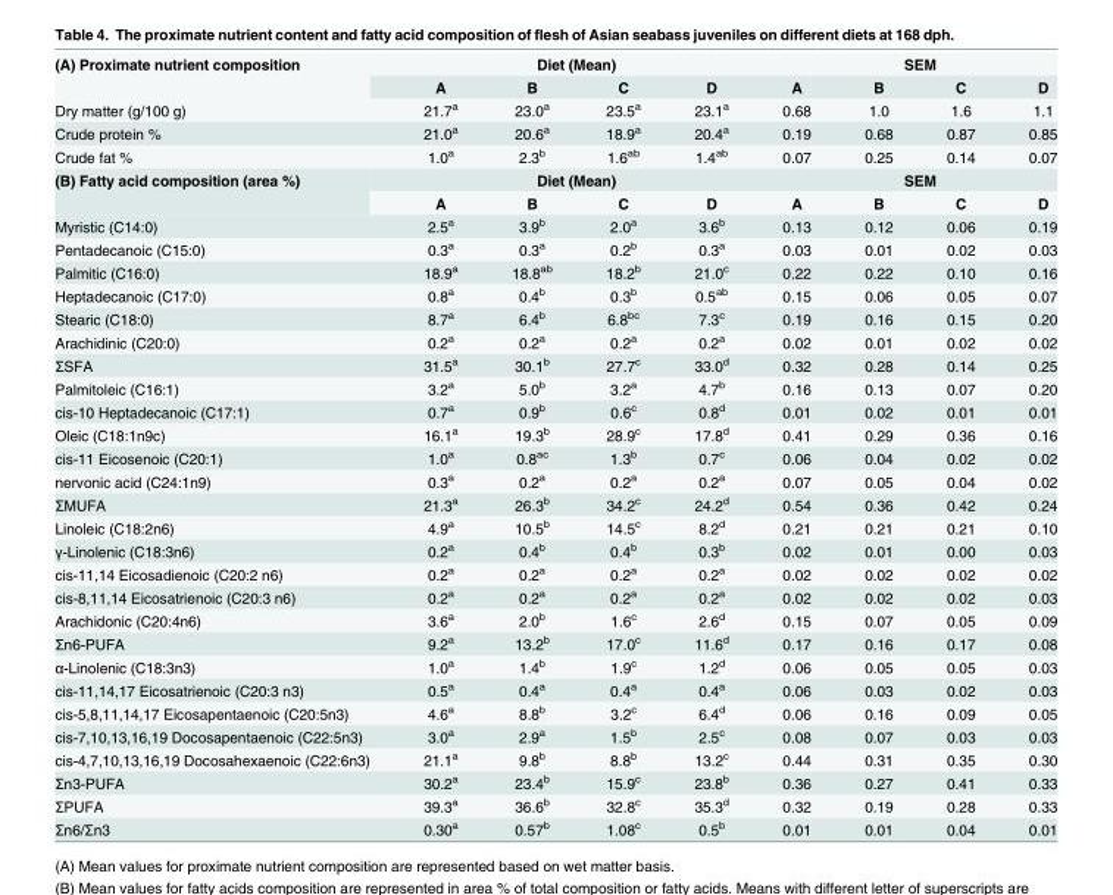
<table><tbody><tr><td rowspan="2">(A) Proximate nutrient composition</td><td colspan="4">Diet (Mean)</td><td colspan="4">SEM</td></tr><tr><td>A</td><td>B</td><td>C</td><td>D</td><td>A</td><td>B</td><td>C</td><td>D</td></tr><tr><td>Dry matter (g/100 g)</td><td>21.7<sup>a</sup></td><td>23.0<sup>a</sup></td><td>23.5<sup>a</sup></td><td>23.1<sup>a</sup></td><td>0.68</td><td>1.0</td><td>1.6</td><td>1.1</td></tr><tr><td>Crude protein %</td><td>21.0<sup>a</sup></td><td>20.6<sup>a</sup></td><td>18.9<sup>a</sup></td><td>20.4<sup>a</sup></td><td>0.19</td><td>0.68</td><td>0.87</td><td>0.85</td></tr><tr><td>Crude fat %</td><td>1.0<sup>a</sup></td><td>2.3<sup>b</sup></td><td>1.6<sup>ab</sup></td><td>1.4<sup>ab</sup></td><td>0.07</td><td>0.25</td><td>0.14</td><td>0.07</td></tr><tr><td rowspan="2">(B) Fatty acid composition (area %)</td><td colspan="4">Diet (Mean)</td><td colspan="4">SEM</td></tr><tr><td>A</td><td>B</td><td>C</td><td>D</td><td>A</td><td>B</td><td>C</td><td>D</td></tr><tr><td>Myristic (C14:0)</td><td>2.5<sup>a</sup></td><td>3.9<sup>b</sup></td><td>2.0<sup>a</sup></td><td>3.6<sup>b</sup></td><td>0.13</td><td>0.12</td><td>0.06</td><td>0.19</td></tr><tr><td>Pentadecanoic (C15:0)</td><td>0.3<sup>a</sup></td><td>0.3<sup>a</sup></td><td>0.2<sup>b</sup></td><td>0.3<sup>a</sup></td><td>0.03</td><td>0.01</td><td>0.02</td><td>0.03</td></tr><tr><td>Palmitic (C16:0)</td><td>18.9<sup>a</sup></td><td>18.8<sup>ab</sup></td><td>18.2<sup>b</sup></td><td>21.0<sup>c</sup></td><td>0.22</td><td>0.22</td><td>0.10</td><td>0.16</td></tr><tr><td>Heptadecanoic (C17:0)</td><td>0.8<sup>a</sup></td><td>0.4<sup>b</sup></td><td>0.3<sup>b</sup></td><td>0.5<sup>ab</sup></td><td>0.15</td><td>0.06</td><td>0.05</td><td>0.07</td></tr><tr><td>Stearic (C18:0)</td><td>8.7<sup>a</sup></td><td>6.4<sup>b</sup></td><td>6.8<sup>bc</sup></td><td>7.3<sup>c</sup></td><td>0.19</td><td>0.16</td><td>0.15</td><td>0.20</td></tr><tr><td>Arachidinic (C20:0)</td><td>0.2<sup>a</sup></td><td>0.2<sup>a</sup></td><td>0.2<sup>a</sup></td><td>0.2<sup>a</sup></td><td>0.02</td><td>0.01</td><td>0.02</td><td>0.02</td></tr><tr><td>ΣSFA</td><td>31.5<sup>a</sup></td><td>30.1<sup>b</sup></td><td>27.7<sup>c</sup></td><td>33.0<sup>d</sup></td><td>0.32</td><td>0.28</td><td>0.14</td><td>0.25</td></tr><tr><td>Palmitoleic (C16:1)</td><td>3.2<sup>a</sup></td><td>5.0<sup>b</sup></td><td>3.2<sup>a</sup></td><td>4.7<sup>b</sup></td><td>0.16</td><td>0.13</td><td>0.07</td><td>0.20</td></tr><tr><td>cis-10 Heptadecanoic (C17:1)</td><td>0.7<sup>a</sup></td><td>0.9<sup>b</sup></td><td>0.6<sup>c</sup></td><td>0.8<sup>d</sup></td><td>0.01</td><td>0.02</td><td>0.01</td><td>0.01</td></tr><tr><td>Oleic (C18:1n9c)</td><td>16.1<sup>a</sup></td><td>19.3<sup>b</sup></td><td>28.9<sup>c</sup></td><td>17.8<sup>d</sup></td><td>0.41</td><td>0.29</td><td>0.36</td><td>0.16</td></tr><tr><td>cis-11 Eicosenoic (C20:1)</td><td>1.0<sup>a</sup></td><td>0.8<sup>ac</sup></td><td>1.3<sup>b</sup></td><td>0.7<sup>c</sup></td><td>0.06</td><td>0.04</td><td>0.02</td><td>0.02</td></tr><tr><td>nervonic acid (C24:1n9)</td><td>0.3<sup>a</sup></td><td>0.2<sup>a</sup></td><td>0.2<sup>a</sup></td><td>0.2<sup>a</sup></td><td>0.07</td><td>0.05</td><td>0.04</td><td>0.02</td></tr><tr><td>ΣMUFA</td><td>21.3<sup>a</sup></td><td>26.3<sup>b</sup></td><td>34.2<sup>c</sup></td><td>24.2<sup>d</sup></td><td>0.54</td><td>0.36</td><td>0.42</td><td>0.24</td></tr><tr><td>Linoleic (C18:2n6)</td><td>4.9<sup>a</sup></td><td>10.5<sup>b</sup></td><td>14.5<sup>c</sup></td><td>8.2<sup>d</sup></td><td>0.21</td><td>0.21</td><td>0.21</td><td>0.10</td></tr><tr><td>γ-Linolenic (C18:3n6)</td><td>0.2<sup>a</sup></td><td>0.4<sup>b</sup></td><td>0.4<sup>b</sup></td><td>0.3<sup>b</sup></td><td>0.02</td><td>0.01</td><td>0.00</td><td>0.03</td></tr><tr><td>cis-11,14 Eicosadienoic (C20:2 n6)</td><td>0.2<sup>a</sup></td><td>0.2<sup>a</sup></td><td>0.2<sup>a</sup></td><td>0.2<sup>a</sup></td><td>0.02</td><td>0.02</td><td>0.02</td><td>0.02</td></tr><tr><td>cis-8,11,14 Eicosatrienoic (C20:3 n6)</td><td>0.2<sup>a</sup></td><td>0.2<sup>a</sup></td><td>0.2<sup>a</sup></td><td>0.2<sup>a</sup></td><td>0.02</td><td>0.02</td><td>0.02</td><td>0.03</td></tr><tr><td>Arachidonic (C20:4n6)</td><td>3.6<sup>a</sup></td><td>2.0<sup>b</sup></td><td>1.6<sup>c</sup></td><td>2.6<sup>d</sup></td><td>0.15</td><td>0.07</td><td>0.05</td><td>0.09</td></tr><tr><td>Σn6-PUFA</td><td>9.2<sup>a</sup></td><td>13.2<sup>b</sup></td><td>17.0<sup>c</sup></td><td>11.6<sup>d</sup></td><td>0.17</td><td>0.16</td><td>0.17</td><td>0.08</td></tr><tr><td>α-Linolenic (C18:3n3)</td><td>1.0<sup>a</sup></td><td>1.4<sup>b</sup></td><td>1.9<sup>c</sup></td><td>1.2<sup>d</sup></td><td>0.06</td><td>0.05</td><td>0.05</td><td>0.03</td></tr><tr><td>cis-11,14,17 Eicosatrienoic (C20:3 n3)</td><td>0.5<sup>a</sup></td><td>0.4<sup>a</sup></td><td>0.4<sup>a</sup></td><td>0.4<sup>a</sup></td><td>0.06</td><td>0.03</td><td>0.02</td><td>0.03</td></tr><tr><td>cis-5,8,11,14,17 Eicosapentaenoic (C20:5n3)</td><td>4.6<sup>a</sup></td><td>8.8<sup>b</sup></td><td>3.2<sup>c</sup></td><td>6.4<sup>d</sup></td><td>0.06</td><td>0.16</td><td>0.09</td><td>0.05</td></tr><tr><td>cis-7,10,13,16,19 Docosapentaenoic (C22:5n3)</td><td>3.0<sup>a</sup></td><td>2.9<sup>a</sup></td><td>1.5<sup>b</sup></td><td>2.5<sup>c</sup></td><td>0.08</td><td>0.07</td><td>0.03</td><td>0.03</td></tr><tr><td>cis-4,7,10,13,16,19 Docosahexaenoic (C22:6n3)</td><td>21.1<sup>a</sup></td><td>9.8<sup>b</sup></td><td>8.8<sup>b</sup></td><td>13.2<sup>c</sup></td><td>0.44</td><td>0.31</td><td>0.35</td><td>0.30</td></tr><tr><td>Σn3-PUFA</td><td>30.2<sup>a</sup></td><td>23.4<sup>b</sup></td><td>15.9<sup>c</sup></td><td>23.8<sup>b</sup></td><td>0.36</td><td>0.27</td><td>0.41</td><td>0.33</td></tr><tr><td>ΣPUFA</td><td>39.3<sup>a</sup></td><td>36.6<sup>b</sup></td><td>32.8<sup>c</sup></td><td>35.3<sup>d</sup></td><td>0.32</td><td>0.19</td><td>0.28</td><td>0.33</td></tr><tr><td>Σn6/Σn3</td><td>0.30<sup>a</sup></td><td>0.57<sup>b</sup></td><td>1.08<sup>c</sup></td><td>0.5<sup>b</sup></td><td>0.01</td><td>0.01</td><td>0.04</td><td>0.01</td></tr></tbody></table>